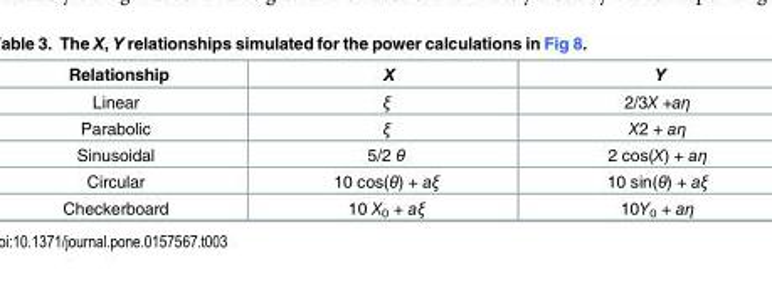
<table><thead><tr><td>Relationship</td><td>X</td><td>Y</td></tr></thead><tbody><tr><td>Linear</td><td>ξ</td><td>2/3X +aη</td></tr><tr><td>Parabolic</td><td>ξ</td><td>X2 + aη</td></tr><tr><td>Sinusoidal</td><td>5/2 θ</td><td>2 cos(X) + aη</td></tr><tr><td>Circular</td><td>10 cos(θ) + aξ</td><td>10 sin(θ) + aξ</td></tr><tr><td>Checkerboard</td><td>10 X<sub>0</sub> + aξ</td><td>10Y<sub>0</sub> + aη</td></tr></tbody></table>